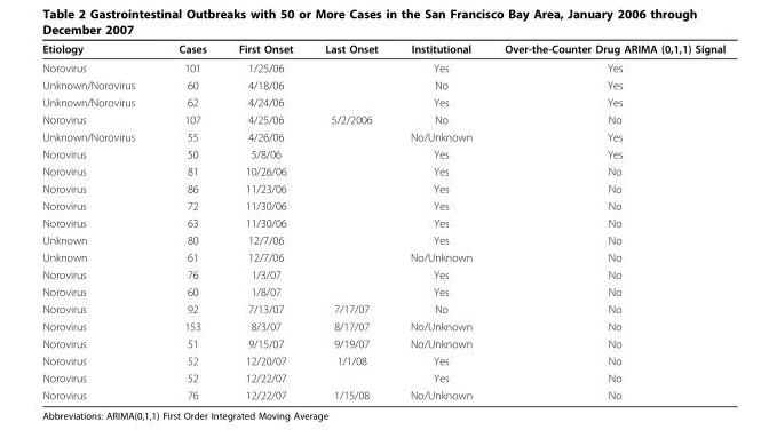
<table><thead><tr><td>Etiology</td><td>Cases</td><td>First Onset</td><td>Last Onset</td><td>Institutional</td><td>Over-the-Counter Drug ARIMA (0,1,1) Signal</td></tr></thead><tbody><tr><td>Norovirus</td><td>101</td><td>1/25/06</td><td></td><td>Yes</td><td>Yes</td></tr><tr><td>Unknown/Norovirus</td><td>60</td><td>4/18/06</td><td></td><td>No</td><td>Yes</td></tr><tr><td>Unknown/Norovirus</td><td>62</td><td>4/24/06</td><td></td><td>Yes</td><td>Yes</td></tr><tr><td>Norovirus</td><td>107</td><td>4/25/06</td><td>5/2/2006</td><td>No</td><td>No</td></tr><tr><td>Unknown/Norovirus</td><td>55</td><td>4/26/06</td><td></td><td>No/Unknown</td><td>Yes</td></tr><tr><td>Norovirus</td><td>50</td><td>5/8/06</td><td></td><td>Yes</td><td>Yes</td></tr><tr><td>Norovirus</td><td>81</td><td>10/26/06</td><td></td><td>Yes</td><td>No</td></tr><tr><td>Norovirus</td><td>86</td><td>11/23/06</td><td></td><td>Yes</td><td>No</td></tr><tr><td>Norovirus</td><td>72</td><td>11/30/06</td><td></td><td>Yes</td><td>No</td></tr><tr><td>Norovirus</td><td>63</td><td>11/30/06</td><td></td><td>Yes</td><td>No</td></tr><tr><td>Unknown</td><td>80</td><td>12/7/06</td><td></td><td>Yes</td><td>No</td></tr><tr><td>Unknown</td><td>61</td><td>12/7/06</td><td></td><td>No/Unknown</td><td>No</td></tr><tr><td>Norovirus</td><td>76</td><td>1/3/07</td><td></td><td>Yes</td><td>No</td></tr><tr><td>Norovirus</td><td>60</td><td>1/8/07</td><td></td><td>Yes</td><td>No</td></tr><tr><td>Norovirus</td><td>92</td><td>7/13/07</td><td>7/17/07</td><td>No</td><td>No</td></tr><tr><td>Norovirus</td><td>153</td><td>8/3/07</td><td>8/17/07</td><td>No/Unknown</td><td>No</td></tr><tr><td>Norovirus</td><td>51</td><td>9/15/07</td><td>9/19/07</td><td>No/Unknown</td><td>No</td></tr><tr><td>Norovirus</td><td>52</td><td>12/20/07</td><td>1/1/08</td><td>Yes</td><td>No</td></tr><tr><td>Norovirus</td><td>52</td><td>12/22/07</td><td></td><td>Yes</td><td>No</td></tr><tr><td>Norovirus</td><td>76</td><td>12/22/07</td><td>1/15/08</td><td>No/Unknown</td><td>No</td></tr></tbody></table>